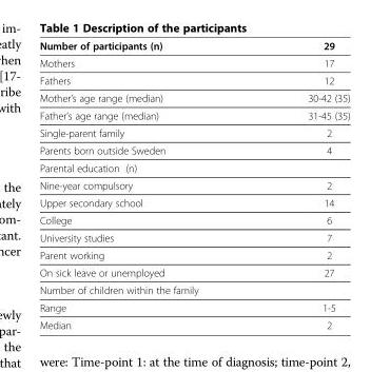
<table><thead><tr><td>Number of participants (n)</td><td>29</td></tr></thead><tbody><tr><td>Mothers</td><td>17</td></tr><tr><td>Fathers</td><td>12</td></tr><tr><td>Mother’s age range (median)</td><td>30-42 (35)</td></tr><tr><td>Father’s age range (median)</td><td>31-45 (35)</td></tr><tr><td>Single-parent family</td><td>2</td></tr><tr><td>Parents born outside Sweden</td><td>4</td></tr><tr><td colspan="2">Parental education (n)</td></tr><tr><td>Nine-year compulsory</td><td>2</td></tr><tr><td>Upper secondary school</td><td>14</td></tr><tr><td>College</td><td>6</td></tr><tr><td>University studies</td><td>7</td></tr><tr><td>Parent working</td><td>2</td></tr><tr><td>On sick leave or unemployed</td><td>27</td></tr><tr><td colspan="2">Number of children within the family</td></tr><tr><td>Range</td><td>1-5</td></tr><tr><td>Median</td><td>2</td></tr></tbody></table>